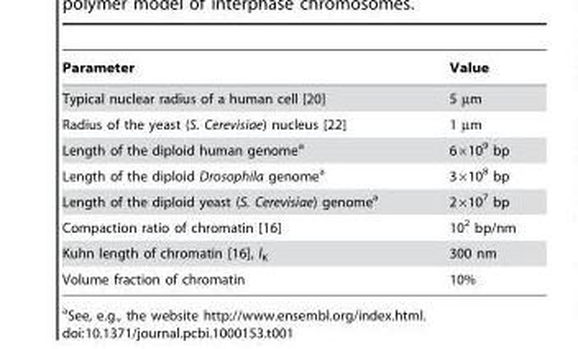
<table><thead><tr><td>Parameter</td><td>Value</td></tr></thead><tbody><tr><td>Typical nuclear radius of a human cell [20]</td><td>5 µm</td></tr><tr><td>Radius of the yeast (S. Cerevisiae) nucleus [22]</td><td>1 µm</td></tr><tr><td>Length of the diploid human genome<sup>a</sup></td><td>6×10<sup>9</sup> bp</td></tr><tr><td>Length of the diploid Drosophila genome<sup>a</sup></td><td>3×10<sup>8</sup> bp</td></tr><tr><td>Length of the diploid yeast (S. Cerevisiae) genome<sup>a</sup></td><td>2×10<sup>7</sup> bp</td></tr><tr><td>Compaction ratio of chromatin [16]</td><td>10<sup>2</sup> bp/nm</td></tr><tr><td>Kuhn length of chromatin [16], l<sub>K</sub></td><td>300 nm</td></tr><tr><td>Volume fraction of chromatin</td><td>10%</td></tr></tbody></table>